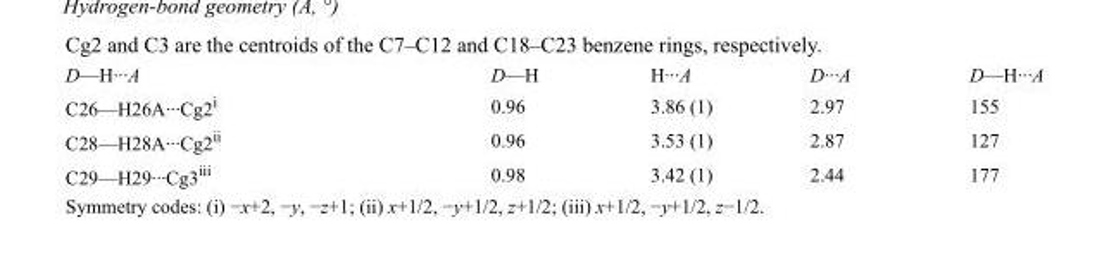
<table><tbody><tr><td>D—H···A</td><td>D—H</td><td>H···A</td><td>D···A</td><td>D—H···A</td></tr><tr><td>C26—H26A···Cg2<sup>i</sup></td><td>0.96</td><td>3.86 (1)</td><td>2.97</td><td>155</td></tr><tr><td>C28—H28A···Cg2<sup>ii</sup></td><td>0.96</td><td>3.53 (1)</td><td>2.87</td><td>127</td></tr><tr><td>C29—H29···Cg3<sup>iii</sup></td><td>0.98</td><td>3.42 (1)</td><td>2.44</td><td>177</td></tr></tbody></table>